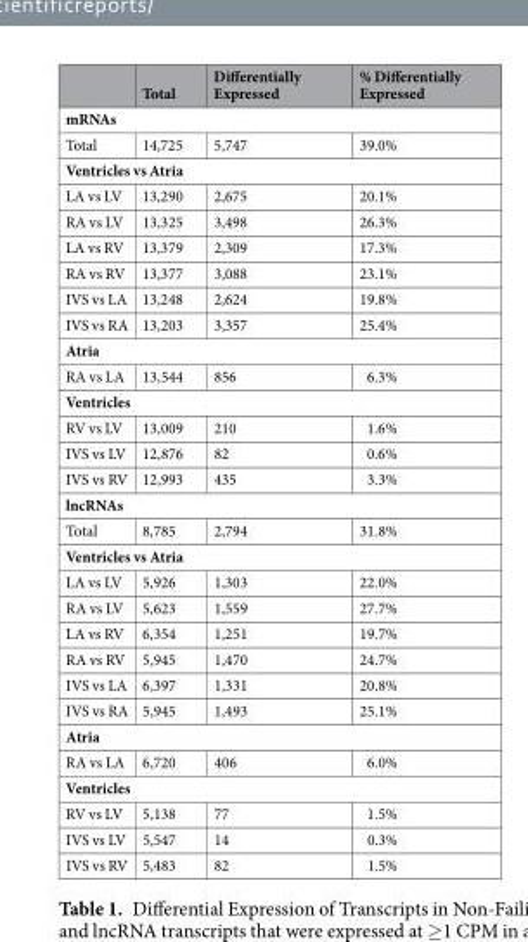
<table><thead><tr><td></td><td>Total</td><td>Differentially Expressed</td><td>% Differentially Expressed</td></tr></thead><tbody><tr><td colspan="4">mRNAs</td></tr><tr><td>Total</td><td>14,725</td><td>5,747</td><td>39.0%</td></tr><tr><td colspan="4">Ventricles vs Atria</td></tr><tr><td>LA vs LV</td><td>13,290</td><td>2,675</td><td>20.1%</td></tr><tr><td>RA vs LV</td><td>13,325</td><td>3,498</td><td>26.3%</td></tr><tr><td>LA vs RV</td><td>13,379</td><td>2,309</td><td>17.3%</td></tr><tr><td>RA vs RV</td><td>13,377</td><td>3,088</td><td>23.1%</td></tr><tr><td>IVS vs LA</td><td>13,248</td><td>2,624</td><td>19.8%</td></tr><tr><td>IVS vs RA</td><td>13,203</td><td>3,357</td><td>25.4%</td></tr><tr><td colspan="4">Atria</td></tr><tr><td>RA vs LA</td><td>13,544</td><td>856</td><td>6.3%</td></tr><tr><td colspan="4">Ventricles</td></tr><tr><td>RV vs LV</td><td>13,009</td><td>210</td><td>1.6%</td></tr><tr><td>IVS vs LV</td><td>12,876</td><td>82</td><td>0.6%</td></tr><tr><td>IVS vs RV</td><td>12,993</td><td>435</td><td>3.3%</td></tr><tr><td colspan="4">lncRNAs</td></tr><tr><td>Total</td><td>8,785</td><td>2,794</td><td>31.8%</td></tr><tr><td colspan="4">Ventricles vs Atria</td></tr><tr><td>LA vs LV</td><td>5,926</td><td>1,303</td><td>22.0%</td></tr><tr><td>RA vs LV</td><td>5,623</td><td>1,559</td><td>27.7%</td></tr><tr><td>LA vs RV</td><td>6,354</td><td>1,251</td><td>19.7%</td></tr><tr><td>RA vs RV</td><td>5,945</td><td>1,470</td><td>24.7%</td></tr><tr><td>IVS vs LA</td><td>6,397</td><td>1,331</td><td>20.8%</td></tr><tr><td>IVS vs RA</td><td>5,945</td><td>1,493</td><td>25.1%</td></tr><tr><td colspan="4">Atria</td></tr><tr><td>RA vs LA</td><td>6,720</td><td>406</td><td>6.0%</td></tr><tr><td colspan="4">Ventricles</td></tr><tr><td>RV vs LV</td><td>5,138</td><td>77</td><td>1.5%</td></tr><tr><td>IVS vs LV</td><td>5,547</td><td>14</td><td>0.3%</td></tr><tr><td>IVS vs RV</td><td>5,483</td><td>82</td><td>1.5%</td></tr></tbody></table>